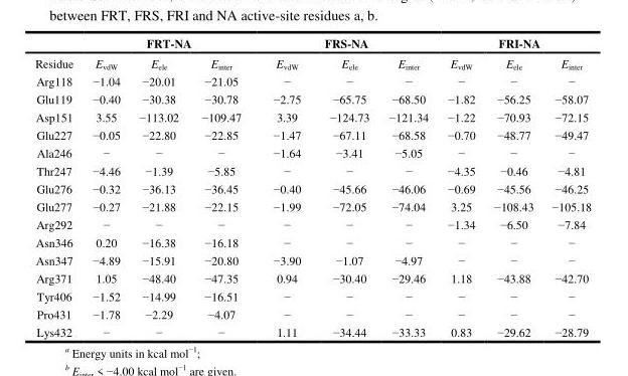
<table><thead><tr><td rowspan="2">Residue</td><td colspan="3">FRT-NA</td><td colspan="3">FRS-NA</td><td colspan="3">FRI-NA</td></tr><tr><td>E<sub>vdW</sub></td><td>E<sub>ele</sub></td><td>E<sub>inter</sub></td><td>E<sub>vdW</sub></td><td>E<sub>ele</sub></td><td>E<sub>inter</sub></td><td>E<sub>vdW</sub></td><td>E<sub>ele</sub></td><td>E<sub>inter</sub></td></tr></thead><tbody><tr><td>Arg118</td><td>−1.04</td><td>−20.01</td><td>−21.05</td><td>−</td><td>−</td><td>−</td><td>−</td><td>−</td><td>−</td></tr><tr><td>Glu119</td><td>−0.40</td><td>−30.38</td><td>−30.78</td><td>−2.75</td><td>−65.75</td><td>−68.50</td><td>−1.82</td><td>−56.25</td><td>−58.07</td></tr><tr><td>Asp151</td><td>3.55</td><td>−113.02</td><td>−109.47</td><td>3.39</td><td>−124.73</td><td>−121.34</td><td>−1.22</td><td>−70.93</td><td>−72.15</td></tr><tr><td>Glu227</td><td>−0.05</td><td>−22.80</td><td>−22.85</td><td>−1.47</td><td>−67.11</td><td>−68.58</td><td>−0.70</td><td>−48.77</td><td>−49.47</td></tr><tr><td>Ala246</td><td>−</td><td>−</td><td>−</td><td>−1.64</td><td>−3.41</td><td>−5.05</td><td>−</td><td>−</td><td>−</td></tr><tr><td>Thr247</td><td>−4.46</td><td>−1.39</td><td>−5.85</td><td>−</td><td>−</td><td>−</td><td>−4.35</td><td>−0.46</td><td>−4.81</td></tr><tr><td>Glu276</td><td>−0.32</td><td>−36.13</td><td>−36.45</td><td>−0.40</td><td>−45.66</td><td>−46.06</td><td>−0.69</td><td>−45.56</td><td>−46.25</td></tr><tr><td>Glu277</td><td>−0.27</td><td>−21.88</td><td>−22.15</td><td>−1.99</td><td>−72.05</td><td>−74.04</td><td>3.25</td><td>−108.43</td><td>−105.18</td></tr><tr><td>Arg292</td><td>−</td><td>−</td><td>−</td><td>−</td><td>−</td><td>−</td><td>−1.34</td><td>−6.50</td><td>−7.84</td></tr><tr><td>Asn346</td><td>0.20</td><td>−16.38</td><td>−16.18</td><td>−</td><td>−</td><td>−</td><td>−</td><td>−</td><td>−</td></tr><tr><td>Asn347</td><td>−4.89</td><td>−15.91</td><td>−20.80</td><td>−3.90</td><td>−1.07</td><td>−4.97</td><td>−</td><td>−</td><td>−</td></tr><tr><td>Arg371</td><td>1.05</td><td>−48.40</td><td>−47.35</td><td>0.94</td><td>−30.40</td><td>−29.46</td><td>1.18</td><td>−43.88</td><td>−42.70</td></tr><tr><td>Tyr406</td><td>−1.52</td><td>−14.99</td><td>−16.51</td><td>−</td><td>−</td><td>−</td><td>−</td><td>−</td><td>−</td></tr><tr><td>Pro431</td><td>−1.78</td><td>−2.29</td><td>−4.07</td><td>−</td><td>−</td><td>−</td><td>−</td><td>−</td><td>−</td></tr><tr><td>Lys432</td><td>−</td><td>−</td><td>−</td><td>1.11</td><td>−34.44</td><td>−33.33</td><td>0.83</td><td>−29.62</td><td>−28.79</td></tr></tbody></table>